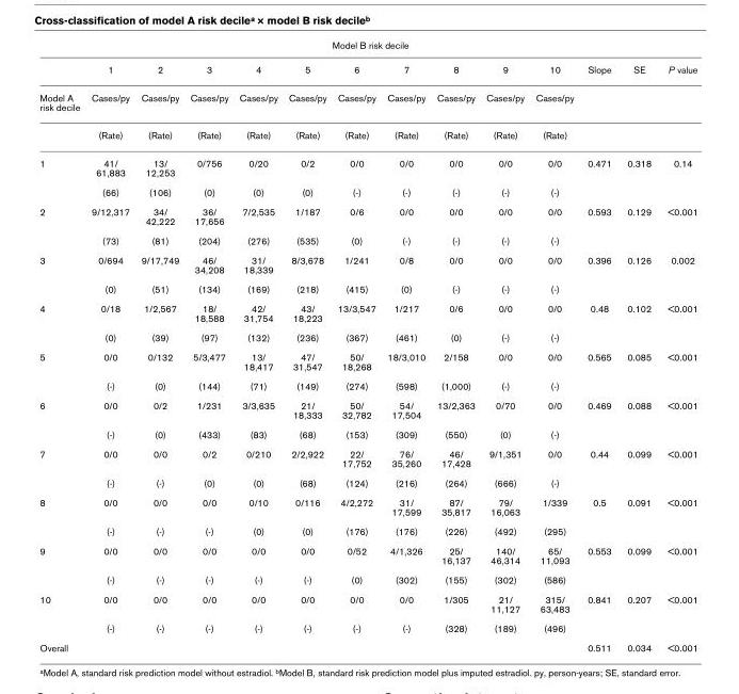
<table><thead><tr><td colspan="14">Model B risk decile</td></tr><tr><td></td><td>1</td><td>2</td><td>3</td><td>4</td><td>5</td><td>6</td><td>7</td><td>8</td><td>9</td><td>10</td><td>Slope</td><td>SE</td><td>P value</td></tr></thead><tbody><tr><td rowspan="2">Model A risk decile</td><td>Cases/py</td><td>Cases/py</td><td>Cases/py</td><td>Cases/py</td><td>Cases/py</td><td>Cases/py</td><td>Cases/py</td><td>Cases/py</td><td>Cases/py</td><td>Cases/py</td><td></td><td></td><td></td></tr><tr><td>(Rate)</td><td>(Rate)</td><td>(Rate)</td><td>(Rate)</td><td>(Rate)</td><td>(Rate)</td><td>(Rate)</td><td>(Rate)</td><td>(Rate)</td><td>(Rate)</td><td></td><td></td><td></td></tr><tr><td rowspan="2">1</td><td>41/ 61,883</td><td>13/ 12,253</td><td>0/756</td><td>0/20</td><td>0/2</td><td>0/0</td><td>0/0</td><td>0/0</td><td>0/0</td><td>0/0</td><td>0.471</td><td>0.318</td><td>0.14</td></tr><tr><td>(66)</td><td>(106)</td><td>(0)</td><td>(0)</td><td>(0)</td><td>(-)</td><td>(-)</td><td>(-)</td><td>(-)</td><td>(-)</td><td></td><td></td><td></td></tr><tr><td rowspan="2">2</td><td>9/12,317</td><td>34/ 42,222</td><td>36/ 17,656</td><td>7/2,535</td><td>1/187</td><td>0/6</td><td>0/0</td><td>0/0</td><td>0/0</td><td>0/0</td><td>0.593</td><td>0.129</td><td>&lt;0.001</td></tr><tr><td>(73)</td><td>(81)</td><td>(204)</td><td>(276)</td><td>(535)</td><td>(0)</td><td>(-)</td><td>(-)</td><td>(-)</td><td>(-)</td><td></td><td></td><td></td></tr><tr><td rowspan="2">3</td><td>0/694</td><td>9/17,749</td><td>46/ 34,208</td><td>31/ 18,339</td><td>8/3,678</td><td>1/241</td><td>0/8</td><td>0/0</td><td>0/0</td><td>0/0</td><td>0.396</td><td>0.126</td><td>0.002</td></tr><tr><td>(0)</td><td>(51)</td><td>(134)</td><td>(169)</td><td>(218)</td><td>(415)</td><td>(0)</td><td>(-)</td><td>(-)</td><td>(-)</td><td></td><td></td><td></td></tr><tr><td rowspan="2">4</td><td>0/18</td><td>1/2,567</td><td>18/ 18,588</td><td>42/ 31,754</td><td>43/ 18,223</td><td>13/3,547</td><td>1/217</td><td>0/6</td><td>0/0</td><td>0/0</td><td>0.48</td><td>0.102</td><td>&lt;0.001</td></tr><tr><td>(0)</td><td>(39)</td><td>(97)</td><td>(132)</td><td>(236)</td><td>(367)</td><td>(461)</td><td>(0)</td><td>(-)</td><td>(-)</td><td></td><td></td><td></td></tr><tr><td rowspan="2">5</td><td>0/0</td><td>0/132</td><td>5/3,477</td><td>13/ 18,417</td><td>47/ 31,547</td><td>50/ 18,268</td><td>18/3,010</td><td>2/158</td><td>0/0</td><td>0/0</td><td>0.565</td><td>0.085</td><td>&lt;0.001</td></tr><tr><td>(-)</td><td>(0)</td><td>(144)</td><td>(71)</td><td>(149)</td><td>(274)</td><td>(598)</td><td>(1,000)</td><td>(-)</td><td>(-)</td><td></td><td></td><td></td></tr><tr><td rowspan="2">6</td><td>0/0</td><td>0/2</td><td>1/231</td><td>3/3,635</td><td>21/ 18,333</td><td>50/ 32,782</td><td>54/ 17,504</td><td>13/2,363</td><td>0/70</td><td>0/0</td><td>0.469</td><td>0.088</td><td>&lt;0.001</td></tr><tr><td>(-)</td><td>(0)</td><td>(433)</td><td>(83)</td><td>(68)</td><td>(153)</td><td>(309)</td><td>(550)</td><td>(0)</td><td>(-)</td><td></td><td></td><td></td></tr><tr><td rowspan="2">7</td><td>0/0</td><td>0/0</td><td>0/2</td><td>0/210</td><td>2/2,922</td><td>22/ 17,752</td><td>76/ 35,260</td><td>46/ 17,428</td><td>9/1,351</td><td>0/0</td><td>0.44</td><td>0.099</td><td>&lt;0.001</td></tr><tr><td>(-)</td><td>(-)</td><td>(0)</td><td>(0)</td><td>(68)</td><td>(124)</td><td>(216)</td><td>(264)</td><td>(666)</td><td>(-)</td><td></td><td></td><td></td></tr><tr><td rowspan="2">8</td><td>0/0</td><td>0/0</td><td>0/0</td><td>0/10</td><td>0/116</td><td>4/2,272</td><td>31/ 17,599</td><td>87/ 35,817</td><td>79/ 16,063</td><td>1/339</td><td>0.5</td><td>0.091</td><td>&lt;0.001</td></tr><tr><td>(-)</td><td>(-)</td><td>(-)</td><td>(0)</td><td>(0)</td><td>(176)</td><td>(176)</td><td>(226)</td><td>(492)</td><td>(295)</td><td></td><td></td><td></td></tr><tr><td rowspan="2">9</td><td>0/0</td><td>0/0</td><td>0/0</td><td>0/0</td><td>0/0</td><td>0/52</td><td>4/1,326</td><td>25/ 16,137</td><td>140/ 46,314</td><td>65/ 11,093</td><td>0.553</td><td>0.099</td><td>&lt;0.001</td></tr><tr><td>(-)</td><td>(-)</td><td>(-)</td><td>(-)</td><td>(-)</td><td>(0)</td><td>(302)</td><td>(155)</td><td>(302)</td><td>(586)</td><td></td><td></td><td></td></tr><tr><td rowspan="2">10</td><td>0/0</td><td>0/0</td><td>0/0</td><td>0/0</td><td>0/0</td><td>0/0</td><td>0/0</td><td>1/305</td><td>21/ 11,127</td><td>315/ 63,483</td><td>0.841</td><td>0.207</td><td>&lt;0.001</td></tr><tr><td>(-)</td><td>(-)</td><td>(-)</td><td>(-)</td><td>(-)</td><td>(-)</td><td>(-)</td><td>(328)</td><td>(189)</td><td>(496)</td><td></td><td></td><td></td></tr><tr><td>Overall</td><td></td><td></td><td></td><td></td><td></td><td></td><td></td><td></td><td></td><td></td><td>0.511</td><td>0.034</td><td>&lt;0.001</td></tr></tbody></table>